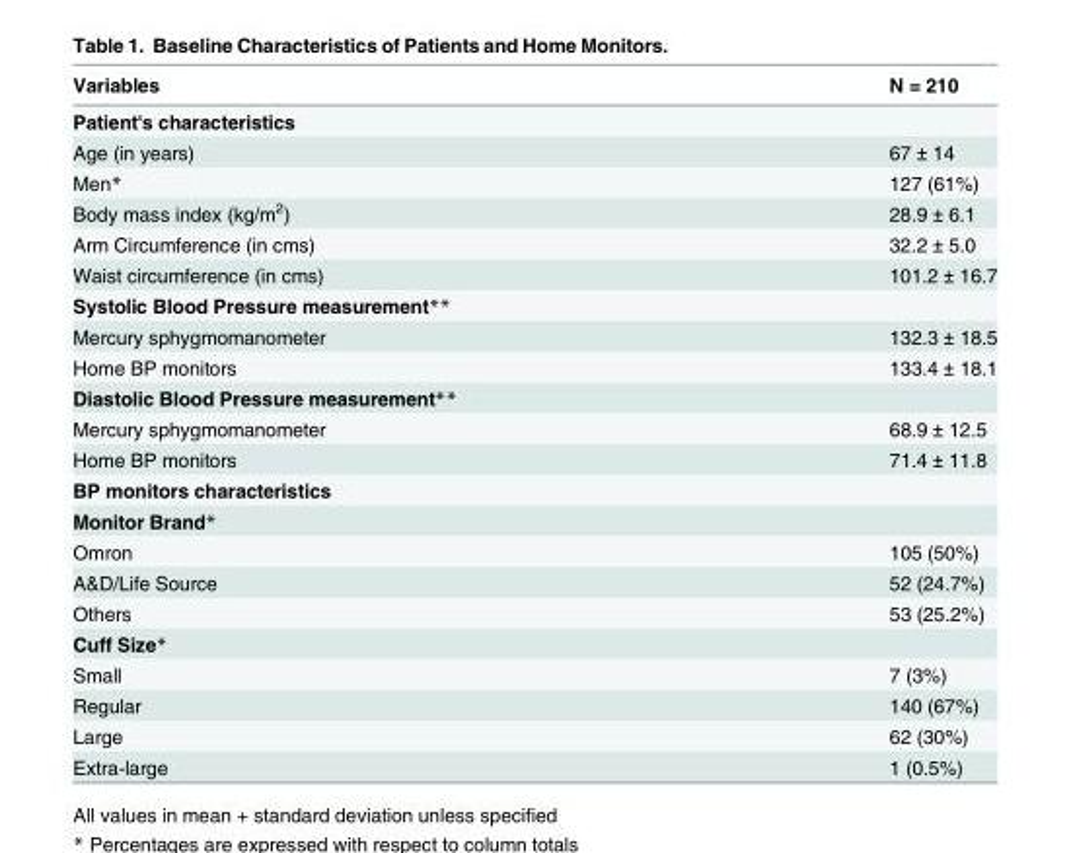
<table><thead><tr><td>Variables</td><td>N = 210</td></tr></thead><tbody><tr><td colspan="2">Patient&#x27;s characteristics</td></tr><tr><td>Age (in years)</td><td>67 ± 14</td></tr><tr><td>Men*</td><td>127 (61%)</td></tr><tr><td>Body mass index (kg/m<sup>2</sup>)</td><td>28.9 ± 6.1</td></tr><tr><td>Arm Circumference (in cms)</td><td>32.2 ± 5.0</td></tr><tr><td>Waist circumference (in cms)</td><td>101.2 ± 16.7</td></tr><tr><td colspan="2">Systolic Blood Pressure measurement**</td></tr><tr><td>Mercury sphygmomanometer</td><td>132.3 ± 18.5</td></tr><tr><td>Home BP monitors</td><td>133.4 ± 18.1</td></tr><tr><td colspan="2">Diastolic Blood Pressure measurement**</td></tr><tr><td>Mercury sphygmomanometer</td><td>68.9 ± 12.5</td></tr><tr><td>Home BP monitors</td><td>71.4 ± 11.8</td></tr><tr><td colspan="2">BP monitors characteristics</td></tr><tr><td colspan="2">Monitor Brand*</td></tr><tr><td>Omron</td><td>105 (50%)</td></tr><tr><td>A&amp;D/Life Source</td><td>52 (24.7%)</td></tr><tr><td>Others</td><td>53 (25.2%)</td></tr><tr><td colspan="2">Cuff Size*</td></tr><tr><td>Small</td><td>7 (3%)</td></tr><tr><td>Regular</td><td>140 (67%)</td></tr><tr><td>Large</td><td>62 (30%)</td></tr><tr><td>Extra-large</td><td>1 (0.5%)</td></tr></tbody></table>